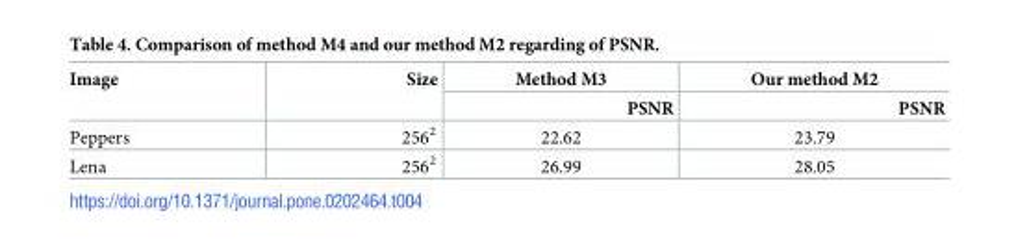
<table><thead><tr><td rowspan="2">Image</td><td rowspan="2">Size</td><td rowspan="2">Method M3 PSNR</td><td rowspan="2">Our method M2 PSNR</td></tr><tr></tr></thead><tbody><tr><td>Peppers</td><td>256<sup>2</sup></td><td>22.62</td><td>23.79</td></tr><tr><td>Lena</td><td>256<sup>2</sup></td><td>26.99</td><td>28.05</td></tr></tbody></table>